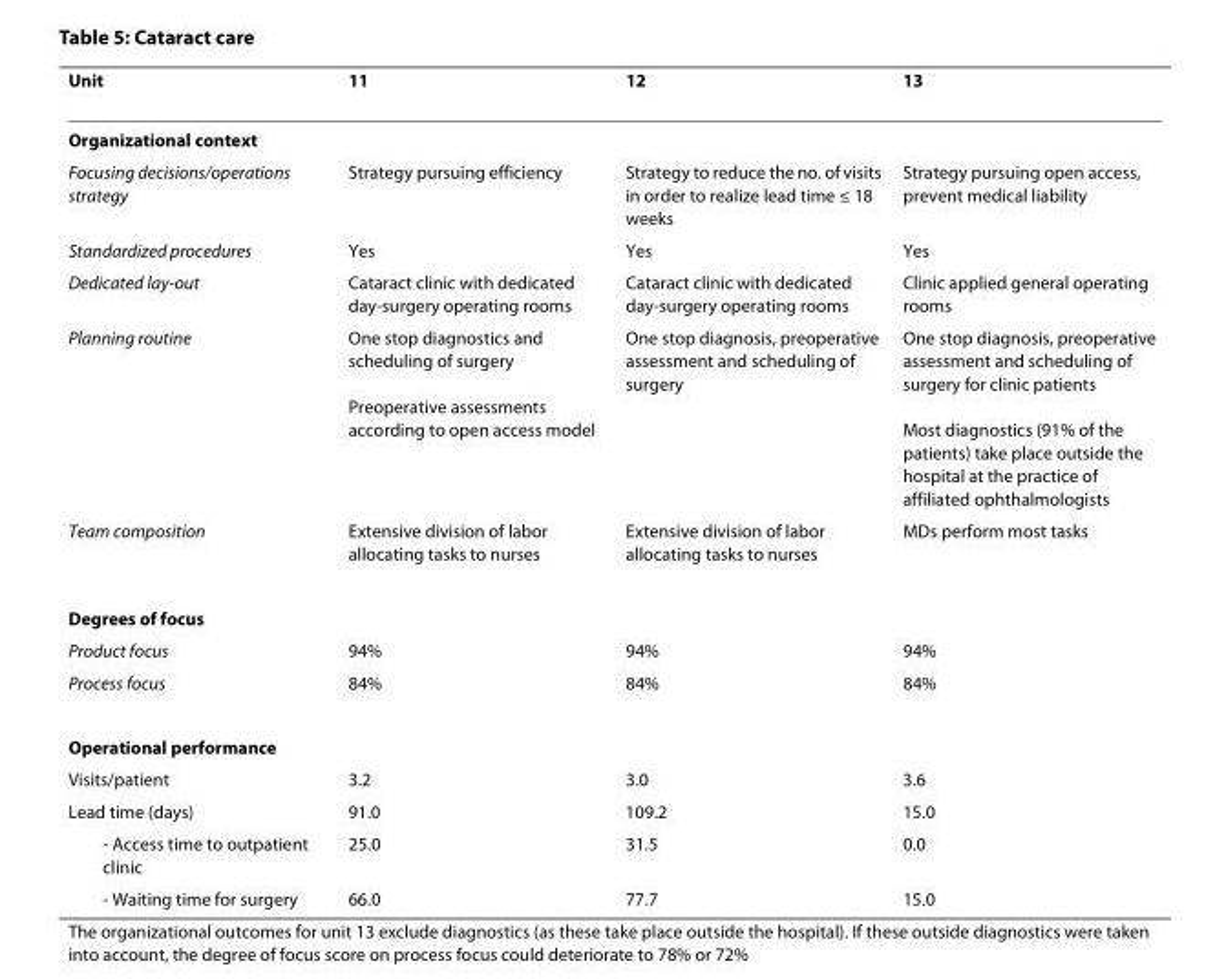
<table><thead><tr><td>Unit</td><td>11</td><td>12</td><td>13</td></tr></thead><tbody><tr><td colspan="4">Organizational context</td></tr><tr><td>Focusing decisions/operations strategy</td><td>Strategy pursuing efficiency</td><td>Strategy to reduce the no. of visits in order to realize lead time ≤ 18 weeks</td><td>Strategy pursuing open access, prevent medical liability</td></tr><tr><td>Standardized procedures</td><td>Yes</td><td>Yes</td><td>Yes</td></tr><tr><td>Dedicated lay-out</td><td>Cataract clinic with dedicated day-surgery operating rooms</td><td>Cataract clinic with dedicated day-surgery operating rooms</td><td>Clinic applied general operating rooms</td></tr><tr><td>Planning routine</td><td>One stop diagnostics and scheduling of surgery Preoperative assessments according to open access model</td><td>One stop diagnosis, preoperative assessment and scheduling of surgery</td><td>One stop diagnosis, preoperative assessment and scheduling of surgery for clinic patients Most diagnostics (91% of the patients) take place outside the hospital at the practice of affiliated ophthalmologists</td></tr><tr><td>Team composition</td><td>Extensive division of labor allocating tasks to nurses</td><td>Extensive division of labor allocating tasks to nurses</td><td>MDs perform most tasks</td></tr><tr><td colspan="4">Degrees of focus</td></tr><tr><td>Product focus</td><td>94%</td><td>94%</td><td>94%</td></tr><tr><td>Process focus</td><td>84%</td><td>84%</td><td>84%</td></tr><tr><td colspan="4">Operational performance</td></tr><tr><td>Visits/patient</td><td>3.2</td><td>3.0</td><td>3.6</td></tr><tr><td>Lead time (days)</td><td>91.0</td><td>109.2</td><td>15.0</td></tr><tr><td>- Access time to outpatient clinic</td><td>25.0</td><td>31.5</td><td>0.0</td></tr><tr><td>- Waiting time for surgery</td><td>66.0</td><td>77.7</td><td>15.0</td></tr></tbody></table>